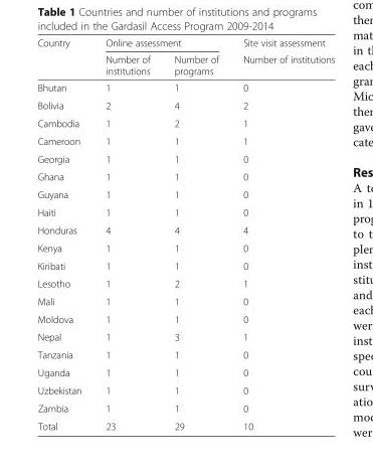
<table><thead><tr><td rowspan="2">Country</td><td colspan="2">Online assessment</td><td rowspan="2">Site visit assessment Number of institutions</td></tr><tr><td>Number of institutions</td><td>Number of programs</td></tr></thead><tbody><tr><td>Bhutan</td><td>1</td><td>1</td><td>0</td></tr><tr><td>Bolivia</td><td>2</td><td>4</td><td>2</td></tr><tr><td>Cambodia</td><td>1</td><td>2</td><td>1</td></tr><tr><td>Cameroon</td><td>1</td><td>1</td><td>1</td></tr><tr><td>Georgia</td><td>1</td><td>1</td><td>0</td></tr><tr><td>Ghana</td><td>1</td><td>1</td><td>0</td></tr><tr><td>Guyana</td><td>1</td><td>1</td><td>0</td></tr><tr><td>Haiti</td><td>1</td><td>1</td><td>0</td></tr><tr><td>Honduras</td><td>4</td><td>4</td><td>4</td></tr><tr><td>Kenya</td><td>1</td><td>1</td><td>0</td></tr><tr><td>Kiribati</td><td>1</td><td>1</td><td>0</td></tr><tr><td>Lesotho</td><td>1</td><td>2</td><td>1</td></tr><tr><td>Mali</td><td>1</td><td>1</td><td>0</td></tr><tr><td>Moldova</td><td>1</td><td>1</td><td>0</td></tr><tr><td>Nepal</td><td>1</td><td>3</td><td>1</td></tr><tr><td>Tanzania</td><td>1</td><td>1</td><td>0</td></tr><tr><td>Uganda</td><td>1</td><td>1</td><td>0</td></tr><tr><td>Uzbekistan</td><td>1</td><td>1</td><td>0</td></tr><tr><td>Zambia</td><td>1</td><td>1</td><td>0</td></tr><tr><td>Total</td><td>23</td><td>29</td><td>10</td></tr></tbody></table>